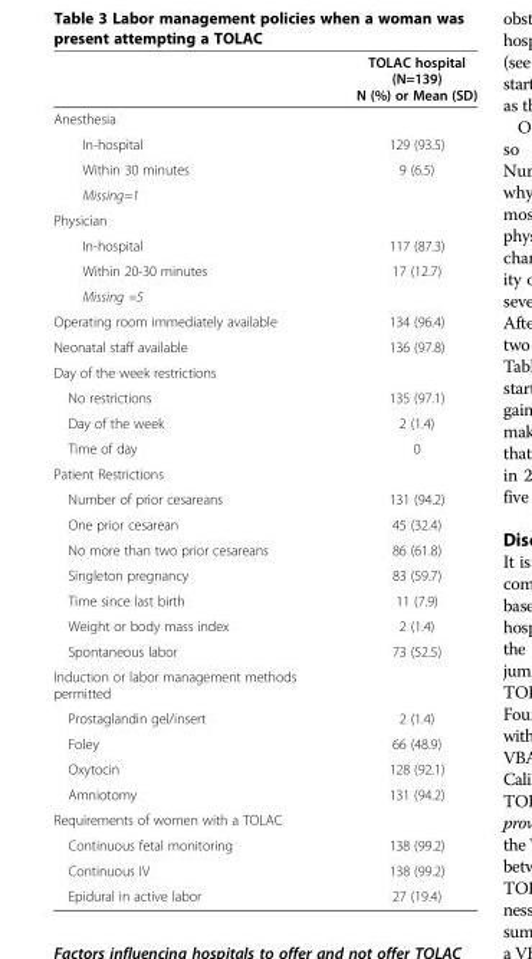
<table><thead><tr><td></td><td>TOLAC hospital (N=139) N (%) or Mean (SD)</td></tr></thead><tbody><tr><td colspan="2">Anesthesia</td></tr><tr><td>In-hospital</td><td>129 (93.5)</td></tr><tr><td>Within 30 minutes</td><td rowspan="2">9 (6.5)</td></tr><tr><td>Missing=1</td></tr><tr><td colspan="2">Physician</td></tr><tr><td>In-hospital</td><td>117 (87.3)</td></tr><tr><td>Within 20-30 minutes</td><td rowspan="2">17 (12.7)</td></tr><tr><td>Missing =5</td></tr><tr><td>Operating room immediately available</td><td>134 (96.4)</td></tr><tr><td>Neonatal staff available</td><td>136 (97.8)</td></tr><tr><td colspan="2">Day of the week restrictions</td></tr><tr><td>No restrictions</td><td>135 (97.1)</td></tr><tr><td>Day of the week</td><td>2 (1.4)</td></tr><tr><td>Time of day</td><td>0</td></tr><tr><td colspan="2">Patient Restrictions</td></tr><tr><td>Number of prior cesareans</td><td>131 (94.2)</td></tr><tr><td>One prior cesarean</td><td>45 (32.4)</td></tr><tr><td>No more than two prior cesareans</td><td>86 (61.8)</td></tr><tr><td>Singleton pregnancy</td><td>83 (59.7)</td></tr><tr><td>Time since last birth</td><td>11 (7.9)</td></tr><tr><td>Weight or body mass index</td><td>2 (1.4)</td></tr><tr><td>Spontaneous labor</td><td>73 (52.5)</td></tr><tr><td colspan="2">Induction or labor management methods permitted</td></tr><tr><td>Prostaglandin gel/insert</td><td>2 (1.4)</td></tr><tr><td>Foley</td><td>66 (48.9)</td></tr><tr><td>Oxytocin</td><td>128 (92.1)</td></tr><tr><td>Amniotomy</td><td>131 (94.2)</td></tr><tr><td colspan="2">Requirements of women with a TOLAC</td></tr><tr><td>Continuous fetal monitoring</td><td>138 (99.2)</td></tr><tr><td>Continuous IV</td><td>138 (99.2)</td></tr><tr><td>Epidural in active labor</td><td>27 (19.4)</td></tr></tbody></table>